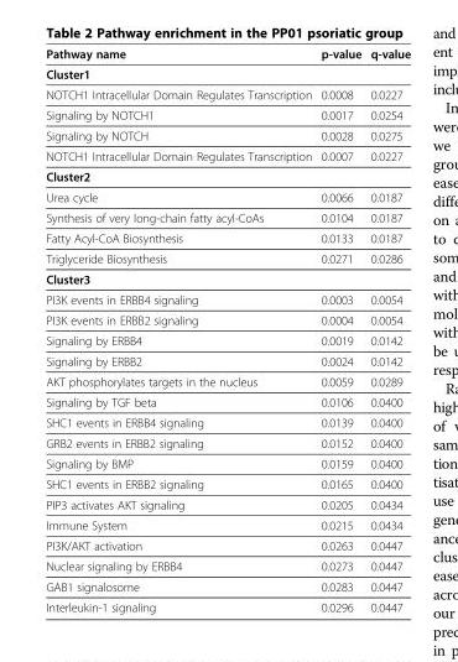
<table><thead><tr><td>Pathway name</td><td>p-value</td><td>q-value</td></tr></thead><tbody><tr><td colspan="3">Cluster1</td></tr><tr><td>NOTCH1 Intracellular Domain Regulates Transcription</td><td>0.0008</td><td>0.0227</td></tr><tr><td>Signaling by NOTCH1</td><td>0.0017</td><td>0.0254</td></tr><tr><td>Signaling by NOTCH</td><td>0.0028</td><td>0.0275</td></tr><tr><td>NOTCH1 Intracellular Domain Regulates Transcription</td><td>0.0007</td><td>0.0227</td></tr><tr><td colspan="3">Cluster2</td></tr><tr><td>Urea cycle</td><td>0.0066</td><td>0.0187</td></tr><tr><td>Synthesis of very long-chain fatty acyl-CoAs</td><td>0.0104</td><td>0.0187</td></tr><tr><td>Fatty Acyl-CoA Biosynthesis</td><td>0.0133</td><td>0.0187</td></tr><tr><td>Triglyceride Biosynthesis</td><td>0.0271</td><td>0.0286</td></tr><tr><td colspan="3">Cluster3</td></tr><tr><td>PI3K events in ERBB4 signaling</td><td>0.0003</td><td>0.0054</td></tr><tr><td>PI3K events in ERBB2 signaling</td><td>0.0004</td><td>0.0054</td></tr><tr><td>Signaling by ERBB4</td><td>0.0019</td><td>0.0142</td></tr><tr><td>Signaling by ERBB2</td><td>0.0024</td><td>0.0142</td></tr><tr><td>AKT phosphorylates targets in the nucleus</td><td>0.0059</td><td>0.0289</td></tr><tr><td>Signaling by TGF beta</td><td>0.0106</td><td>0.0400</td></tr><tr><td>SHC1 events in ERBB4 signaling</td><td>0.0139</td><td>0.0400</td></tr><tr><td>GRB2 events in ERBB2 signaling</td><td>0.0152</td><td>0.0400</td></tr><tr><td>Signaling by BMP</td><td>0.0159</td><td>0.0400</td></tr><tr><td>SHC1 events in ERBB2 signaling</td><td>0.0165</td><td>0.0400</td></tr><tr><td>PIP3 activates AKT signaling</td><td>0.0205</td><td>0.0434</td></tr><tr><td>Immune System</td><td>0.0215</td><td>0.0434</td></tr><tr><td>PI3K/AKT activation</td><td>0.0263</td><td>0.0447</td></tr><tr><td>Nuclear signaling by ERBB4</td><td>0.0273</td><td>0.0447</td></tr><tr><td>GAB1 signalosome</td><td>0.0283</td><td>0.0447</td></tr><tr><td>Interleukin-1 signaling</td><td>0.0296</td><td>0.0447</td></tr></tbody></table>